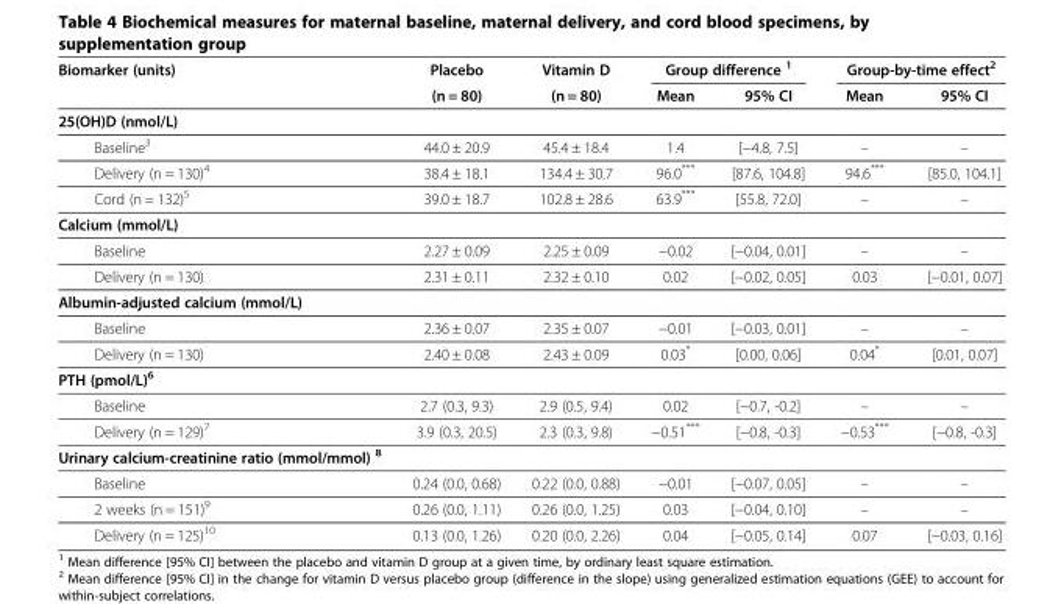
<table><thead><tr><td rowspan="2">Biomarker (units)</td><td rowspan="2">Placebo (n = 80)</td><td rowspan="2">Vitamin D (n = 80)</td><td colspan="2">Group difference <sup>1</sup></td><td colspan="2">Group-by-time effect<sup>2</sup></td></tr><tr><td>Mean</td><td>95% CI</td><td>Mean</td><td>95% CI</td></tr></thead><tbody><tr><td colspan="7">25(OH)D (nmol/L)</td></tr><tr><td>Baseline<sup>3</sup></td><td>44.0 ± 20.9</td><td>45.4 ± 18.4</td><td>1.4</td><td>[−4.8, 7.5]</td><td>–</td><td>–</td></tr><tr><td>Delivery (n = 130)<sup>4</sup></td><td>38.4 ± 18.1</td><td>134.4 ± 30.7</td><td>96.0***</td><td>[87.6, 104.8]</td><td>94.6***</td><td>[85.0, 104.1]</td></tr><tr><td>Cord (n = 132)<sup>5</sup></td><td>39.0 ± 18.7</td><td>102.8 ± 28.6</td><td>63.9***</td><td>[55.8, 72.0]</td><td>–</td><td>–</td></tr><tr><td colspan="7">Calcium (mmol/L)</td></tr><tr><td>Baseline</td><td>2.27 ± 0.09</td><td>2.25 ± 0.09</td><td>−0.02</td><td>[−0.04, 0.01]</td><td>–</td><td>–</td></tr><tr><td>Delivery (n = 130)</td><td>2.31 ± 0.11</td><td>2.32 ± 0.10</td><td>0.02</td><td>[−0.02, 0.05]</td><td>0.03</td><td>[−0.01, 0.07]</td></tr><tr><td colspan="7">Albumin-adjusted calcium (mmol/L)</td></tr><tr><td>Baseline</td><td>2.36 ± 0.07</td><td>2.35 ± 0.07</td><td>−0.01</td><td>[−0.03, 0.01]</td><td>–</td><td>–</td></tr><tr><td>Delivery (n = 130)</td><td>2.40 ± 0.08</td><td>2.43 ± 0.09</td><td>0.03*</td><td>[0.00, 0.06]</td><td>0.04*</td><td>[0.01, 0.07]</td></tr><tr><td colspan="7">PTH (pmol/L)<sup>6</sup></td></tr><tr><td>Baseline</td><td>2.7 (0.3, 9.3)</td><td>2.9 (0.5, 9.4)</td><td>0.02</td><td>[−0.7, -0.2]</td><td>–</td><td>–</td></tr><tr><td>Delivery (n = 129)<sup>7</sup></td><td>3.9 (0.3, 20.5)</td><td>2.3 (0.3, 9.8)</td><td>−0.51***</td><td>[−0.8, -0.3]</td><td>−0.53***</td><td>[−0.8, -0.3]</td></tr><tr><td colspan="7">Urinary calcium-creatinine ratio (mmol/mmol) <sup>8</sup></td></tr><tr><td>Baseline</td><td>0.24 (0.0, 0.68)</td><td>0.22 (0.0, 0.88)</td><td>−0.01</td><td>[−0.07, 0.05]</td><td>–</td><td>–</td></tr><tr><td>2 weeks (n = 151)<sup>9</sup></td><td>0.26 (0.0, 1.11)</td><td>0.26 (0.0, 1.25)</td><td>0.03</td><td>[−0.04, 0.10]</td><td>–</td><td>–</td></tr><tr><td>Delivery (n = 125)<sup>10</sup></td><td>0.13 (0.0, 1.26)</td><td>0.20 (0.0, 2.26)</td><td>0.04</td><td>[−0.05, 0.14]</td><td>0.07</td><td>[−0.03, 0.16]</td></tr></tbody></table>